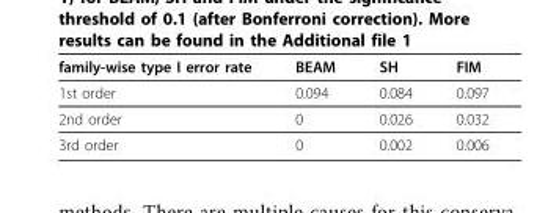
<table><thead><tr><td>family-wise type I error rate</td><td>BEAM</td><td>SH</td><td>FIM</td></tr></thead><tbody><tr><td>1st order</td><td>0.094</td><td>0.084</td><td>0.097</td></tr><tr><td>2nd order</td><td>0</td><td>0.026</td><td>0.032</td></tr><tr><td>3rd order</td><td>0</td><td>0.002</td><td>0.006</td></tr></tbody></table>